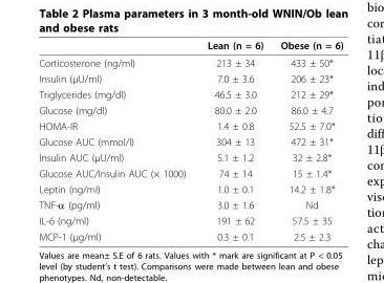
<table><thead><tr><td></td><td>Lean (n = 6)</td><td>Obese (n = 6)</td></tr></thead><tbody><tr><td>Corticosterone (ng/ml)</td><td>213 ± 34</td><td>433 ± 50*</td></tr><tr><td>Insulin (μU/ml)</td><td>7.0 ± 3.6</td><td>206 ± 23*</td></tr><tr><td>Triglycerides (mg/dl)</td><td>46.5 ± 3.0</td><td>212 ± 29*</td></tr><tr><td>Glucose (mg/dl)</td><td>80.0 ± 2.0</td><td>86.0 ± 4.7</td></tr><tr><td>HOMA-IR</td><td>1.4 ± 0.8</td><td>52.5 ± 7.0*</td></tr><tr><td>Glucose AUC (mmol/l)</td><td>304 ± 13</td><td>472 ± 31*</td></tr><tr><td>Insulin AUC (μU/ml)</td><td>5.1 ± 1.2</td><td>32 ± 2.8*</td></tr><tr><td>Glucose AUC/Insulin AUC (× 1000)</td><td>74 ± 14</td><td>15 ± 1.4*</td></tr><tr><td>Leptin (ng/ml)</td><td>1.0 ± 0.1</td><td>14.2 ± 1.8*</td></tr><tr><td>TNF-α (pg/ml)</td><td>3.0 ± 1.6</td><td>Nd</td></tr><tr><td>IL-6 (ng/ml)</td><td>191 ± 62</td><td>57.5 ± 35</td></tr><tr><td>MCP-1 (μg/ml)</td><td>0.3 ± 0.1</td><td>2.5 ± 2.3</td></tr></tbody></table>